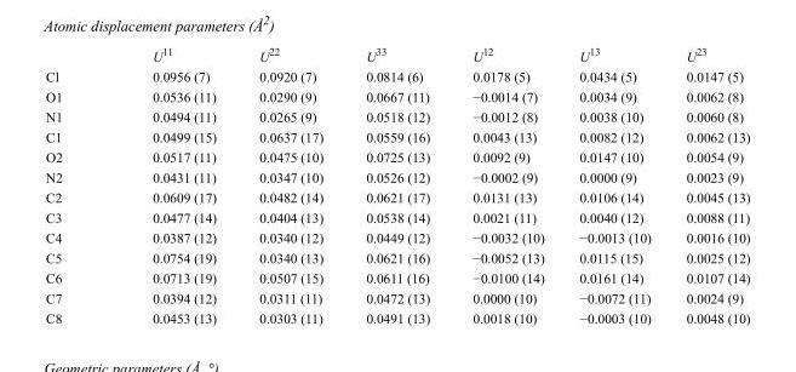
<table><thead><tr><td></td><td>U<sup>11</sup></td><td>U<sup>22</sup></td><td>U<sup>33</sup></td><td>U<sup>12</sup></td><td>U<sup>13</sup></td><td>U<sup>23</sup></td></tr></thead><tbody><tr><td>Cl</td><td>0.0956 (7)</td><td>0.0920 (7)</td><td>0.0814 (6)</td><td>0.0178 (5)</td><td>0.0434 (5)</td><td>0.0147 (5)</td></tr><tr><td>O1</td><td>0.0536 (11)</td><td>0.0290 (9)</td><td>0.0667 (11)</td><td>−0.0014 (7)</td><td>0.0034 (9)</td><td>0.0062 (8)</td></tr><tr><td>N1</td><td>0.0494 (11)</td><td>0.0265 (9)</td><td>0.0518 (12)</td><td>−0.0012 (8)</td><td>0.0038 (10)</td><td>0.0060 (8)</td></tr><tr><td>C1</td><td>0.0499 (15)</td><td>0.0637 (17)</td><td>0.0559 (16)</td><td>0.0043 (13)</td><td>0.0082 (12)</td><td>0.0062 (13)</td></tr><tr><td>O2</td><td>0.0517 (11)</td><td>0.0475 (10)</td><td>0.0725 (13)</td><td>0.0092 (9)</td><td>0.0147 (10)</td><td>0.0054 (9)</td></tr><tr><td>N2</td><td>0.0431 (11)</td><td>0.0347 (10)</td><td>0.0526 (12)</td><td>−0.0002 (9)</td><td>0.0000 (9)</td><td>0.0023 (9)</td></tr><tr><td>C2</td><td>0.0609 (17)</td><td>0.0482 (14)</td><td>0.0621 (17)</td><td>0.0131 (13)</td><td>0.0106 (14)</td><td>0.0045 (13)</td></tr><tr><td>C3</td><td>0.0477 (14)</td><td>0.0404 (13)</td><td>0.0538 (14)</td><td>0.0021 (11)</td><td>0.0040 (12)</td><td>0.0088 (11)</td></tr><tr><td>C4</td><td>0.0387 (12)</td><td>0.0340 (12)</td><td>0.0449 (12)</td><td>−0.0032 (10)</td><td>−0.0013 (10)</td><td>0.0016 (10)</td></tr><tr><td>C5</td><td>0.0754 (19)</td><td>0.0340 (13)</td><td>0.0621 (16)</td><td>−0.0052 (13)</td><td>0.0115 (15)</td><td>0.0025 (12)</td></tr><tr><td>C6</td><td>0.0713 (19)</td><td>0.0507 (15)</td><td>0.0611 (16)</td><td>−0.0100 (14)</td><td>0.0161 (14)</td><td>0.0107 (14)</td></tr><tr><td>C7</td><td>0.0394 (12)</td><td>0.0311 (11)</td><td>0.0472 (13)</td><td>0.0000 (10)</td><td>−0.0072 (11)</td><td>0.0024 (9)</td></tr><tr><td>C8</td><td>0.0453 (13)</td><td>0.0303 (11)</td><td>0.0491 (13)</td><td>0.0018 (10)</td><td>−0.0003 (10)</td><td>0.0048 (10)</td></tr></tbody></table>